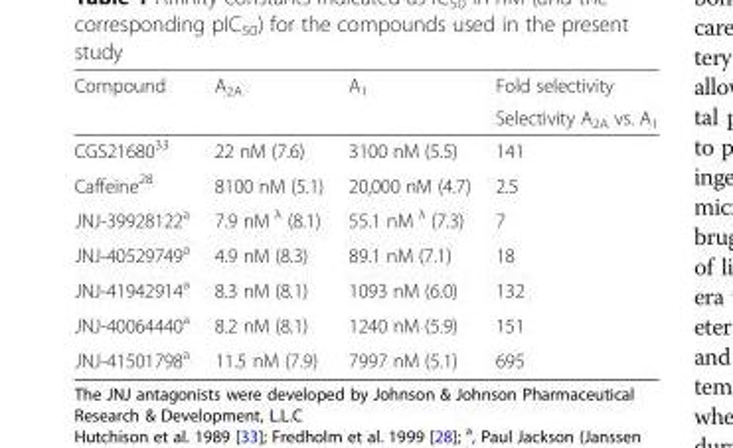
<table><thead><tr><td rowspan="2">Compound</td><td rowspan="2">A<sub>2A</sub></td><td rowspan="2">A<sub>1</sub></td><td rowspan="2">Fold selectivity Selectivity A<sub>2A</sub> vs. A<sub>1</sub></td></tr><tr></tr></thead><tbody><tr><td>CGS21680<sup>33</sup></td><td>22 nM (7.6)</td><td>3100 nM (5.5)</td><td>141</td></tr><tr><td>Caffeine<sup>28</sup></td><td>8100 nM (5.1)</td><td>20,000 nM (4.7)</td><td>2.5</td></tr><tr><td>JNJ-39928122<sup>a</sup></td><td>7.9 nM <sup>λ</sup> (8.1)</td><td>55.1 nM <sup>λ</sup> (7.3)</td><td>7</td></tr><tr><td>JNJ-40529749<sup>a</sup></td><td>4.9 nM (8.3)</td><td>89.1 nM (7.1)</td><td>18</td></tr><tr><td>JNJ-41942914<sup>a</sup></td><td>8.3 nM (8.1)</td><td>1093 nM (6.0)</td><td>132</td></tr><tr><td>JNJ-40064440<sup>a</sup></td><td>8.2 nM (8.1)</td><td>1240 nM (5.9)</td><td>151</td></tr><tr><td>JNJ-41501798<sup>a</sup></td><td>11.5 nM (7.9)</td><td>7997 nM (5.1)</td><td>695</td></tr></tbody></table>